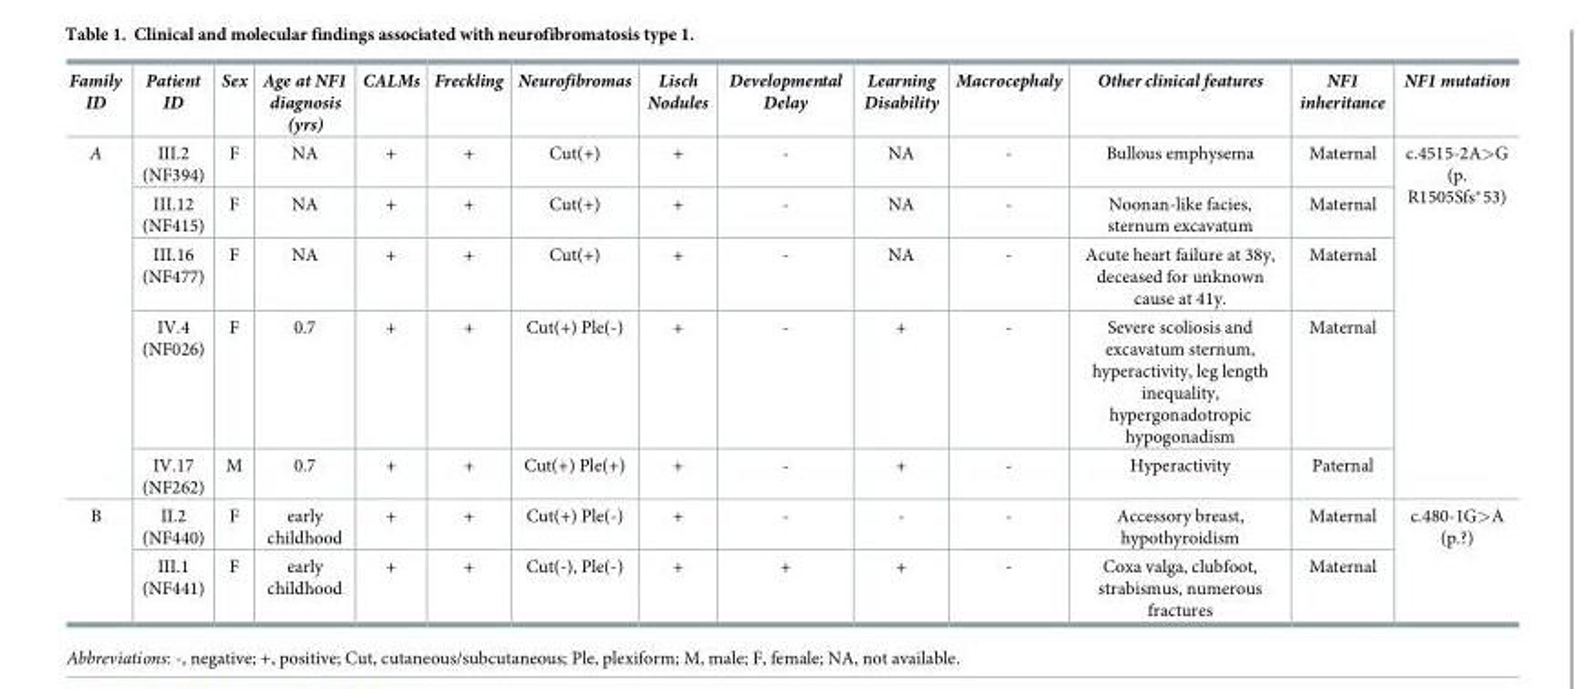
<table><thead><tr><td>Family ID</td><td>Patient ID</td><td>Sex</td><td>Age at NF1 diagnosis (yrs)</td><td>CALMs</td><td>Freckling</td><td>Neurofibromas</td><td>Lisch Nodules</td><td>Developmental Delay</td><td>Learning Disability</td><td>Macrocephaly</td><td>Other clinical features</td><td>NF1 inheritance</td><td>NF1 mutation</td></tr></thead><tbody><tr><td rowspan="5">A</td><td>III.2 (NF394)</td><td>F</td><td>NA</td><td>+</td><td>+</td><td>Cut(+)</td><td>+</td><td>-</td><td>NA</td><td>-</td><td>Bullous emphysema</td><td>Maternal</td><td rowspan="5">c.4515-2A&gt;G (p. R1505Sfs*53)</td></tr><tr><td>III.12 (NF415)</td><td>F</td><td>NA</td><td>+</td><td>+</td><td>Cut(+)</td><td>+</td><td>-</td><td>NA</td><td>-</td><td>Noonan-like facies, sternum excavatum</td><td>Maternal</td></tr><tr><td>III.16 (NF477)</td><td>F</td><td>NA</td><td>+</td><td>+</td><td>Cut(+)</td><td>+</td><td>-</td><td>NA</td><td>-</td><td>Acute heart failure at 38y, deceased for unknown cause at 41y.</td><td>Maternal</td></tr><tr><td>IV.4 (NF026)</td><td>F</td><td>0.7</td><td>+</td><td>+</td><td>Cut(+) Ple(-)</td><td>+</td><td>-</td><td>+</td><td>-</td><td>Severe scoliosis and excavatum sternum, hyperactivity, leg length inequality, hypergonadotropic hypogonadism</td><td>Maternal</td></tr><tr><td>IV.17 (NF262)</td><td>M</td><td>0.7</td><td>+</td><td>+</td><td>Cut(+) Ple(+)</td><td>+</td><td>-</td><td>+</td><td>-</td><td>Hyperactivity</td><td>Paternal</td></tr><tr><td rowspan="2">B</td><td>II.2 (NF440)</td><td>F</td><td>early childhood</td><td>+</td><td>+</td><td>Cut(+) Ple(-)</td><td>+</td><td>-</td><td>-</td><td>-</td><td>Accessory breast, hypothyroidism</td><td>Maternal</td><td rowspan="2">c.480-1G&gt;A (p.?)</td></tr><tr><td>III.1 (NF441)</td><td>F</td><td>early childhood</td><td>+</td><td>+</td><td>Cut(-), Ple(-)</td><td>+</td><td>+</td><td>+</td><td>-</td><td>Coxa valga, clubfoot, strabismus, numerous fractures</td><td>Maternal</td></tr></tbody></table>